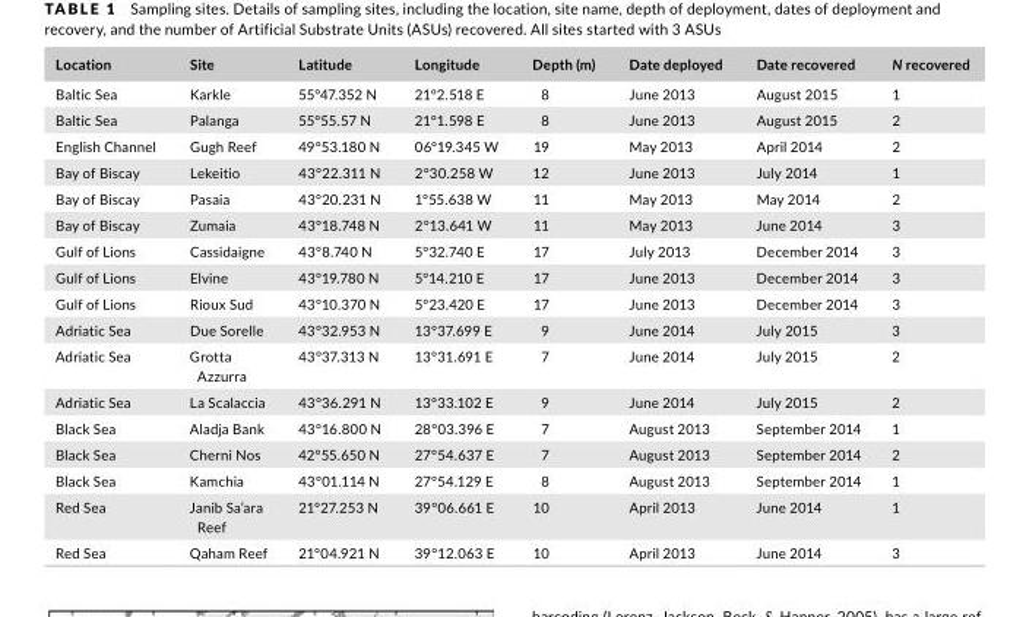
<table><thead><tr><td>Location</td><td>Site</td><td>Latitude</td><td>Longitude</td><td>Depth (m)</td><td>Date deployed</td><td>Date recovered</td><td>N recovered</td></tr></thead><tbody><tr><td>Baltic Sea</td><td>Karkle</td><td>55°47.352 N</td><td>21°2.518 E</td><td>8</td><td>June 2013</td><td>August 2015</td><td>1</td></tr><tr><td>Baltic Sea</td><td>Palanga</td><td>55°55.57 N</td><td>21°1.598 E</td><td>8</td><td>June 2013</td><td>August 2015</td><td>2</td></tr><tr><td>English Channel</td><td>Gugh Reef</td><td>49°53.180 N</td><td>06°19.345 W</td><td>19</td><td>May 2013</td><td>April 2014</td><td>2</td></tr><tr><td>Bay of Biscay</td><td>Lekeitio</td><td>43°22.311 N</td><td>2°30.258 W</td><td>12</td><td>June 2013</td><td>July 2014</td><td>1</td></tr><tr><td>Bay of Biscay</td><td>Pasaia</td><td>43°20.231 N</td><td>1°55.638 W</td><td>11</td><td>May 2013</td><td>May 2014</td><td>2</td></tr><tr><td>Bay of Biscay</td><td>Zumaia</td><td>43°18.748 N</td><td>2°13.641 W</td><td>11</td><td>May 2013</td><td>June 2014</td><td>3</td></tr><tr><td>Gulf of Lions</td><td>Cassidaigne</td><td>43°8.740 N</td><td>5°32.740 E</td><td>17</td><td>July 2013</td><td>December 2014</td><td>3</td></tr><tr><td>Gulf of Lions</td><td>Elvine</td><td>43°19.780 N</td><td>5°14.210 E</td><td>17</td><td>June 2013</td><td>December 2014</td><td>3</td></tr><tr><td>Gulf of Lions</td><td>Rioux Sud</td><td>43°10.370 N</td><td>5°23.420 E</td><td>17</td><td>June 2013</td><td>December 2014</td><td>3</td></tr><tr><td>Adriatic Sea</td><td>Due Sorelle</td><td>43°32.953 N</td><td>13°37.699 E</td><td>9</td><td>June 2014</td><td>July 2015</td><td>3</td></tr><tr><td>Adriatic Sea</td><td>Grotta Azzurra</td><td>43°37.313 N</td><td>13°31.691 E</td><td>7</td><td>June 2014</td><td>July 2015</td><td>2</td></tr><tr><td>Adriatic Sea</td><td>La Scalaccia</td><td>43°36.291 N</td><td>13°33.102 E</td><td>9</td><td>June 2014</td><td>July 2015</td><td>2</td></tr><tr><td>Black Sea</td><td>Aladja Bank</td><td>43°16.800 N</td><td>28°03.396 E</td><td>7</td><td>August 2013</td><td>September 2014</td><td>1</td></tr><tr><td>Black Sea</td><td>Cherni Nos</td><td>42°55.650 N</td><td>27°54.637 E</td><td>7</td><td>August 2013</td><td>September 2014</td><td>2</td></tr><tr><td>Black Sea</td><td>Kamchia</td><td>43°01.114 N</td><td>27°54.129 E</td><td>8</td><td>August 2013</td><td>September 2014</td><td>1</td></tr><tr><td>Red Sea</td><td>Janib Sa’ara Reef</td><td>21°27.253 N</td><td>39°06.661 E</td><td>10</td><td>April 2013</td><td>June 2014</td><td>1</td></tr><tr><td>Red Sea</td><td>Qaham Reef</td><td>21°04.921 N</td><td>39°12.063 E</td><td>10</td><td>April 2013</td><td>June 2014</td><td>3</td></tr></tbody></table>